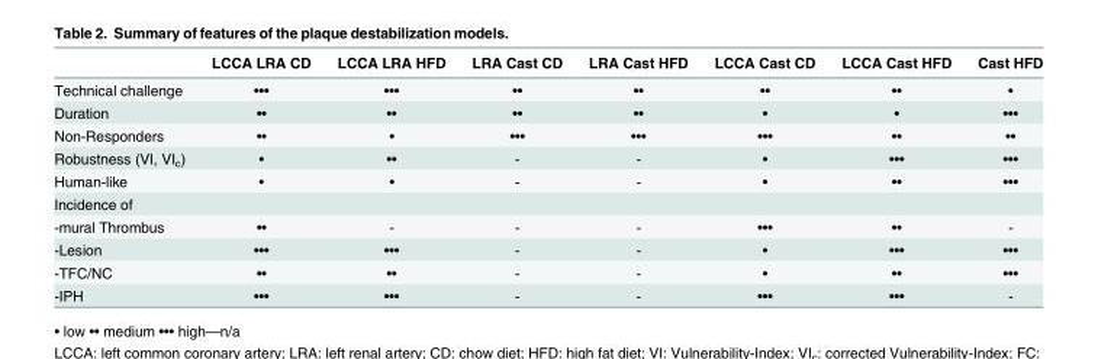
<table><thead><tr><td></td><td>LCCA LRA CD</td><td>LCCA LRA HFD</td><td>LRA Cast CD</td><td>LRA Cast HFD</td><td>LCCA Cast CD</td><td>LCCA Cast HFD</td><td>Cast HFD</td></tr></thead><tbody><tr><td>Technical challenge</td><td>•••</td><td>•••</td><td>••</td><td>••</td><td>••</td><td>••</td><td>•</td></tr><tr><td>Duration</td><td>••</td><td>••</td><td>••</td><td>••</td><td>•</td><td>•</td><td>•••</td></tr><tr><td>Non-Responders</td><td>••</td><td>•</td><td>•••</td><td>•••</td><td>•••</td><td>••</td><td>••</td></tr><tr><td>Robustness (VI, VI<sub>c</sub>)</td><td>•</td><td>••</td><td>-</td><td>-</td><td>•</td><td>•••</td><td>•••</td></tr><tr><td>Human-like</td><td>•</td><td>•</td><td>-</td><td>-</td><td>•</td><td>••</td><td>•••</td></tr><tr><td colspan="8">Incidence of</td></tr><tr><td>-mural Thrombus</td><td>••</td><td>-</td><td>-</td><td>-</td><td>•••</td><td>••</td><td>-</td></tr><tr><td>-Lesion</td><td>•••</td><td>•••</td><td>-</td><td>-</td><td>•</td><td>•••</td><td>•••</td></tr><tr><td>-TFC/NC</td><td>••</td><td>••</td><td>-</td><td>-</td><td>•</td><td>••</td><td>•••</td></tr><tr><td>-IPH</td><td>•••</td><td>•••</td><td>-</td><td>-</td><td>•••</td><td>•••</td><td>-</td></tr></tbody></table>